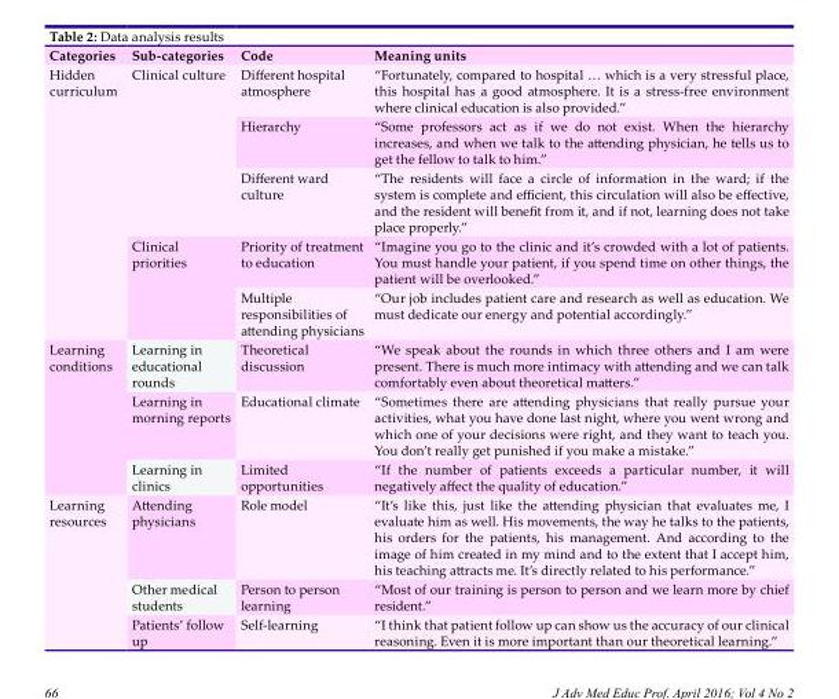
<table><thead><tr><td>Categories</td><td>Sub-categories</td><td>Code</td><td>Meaning units</td></tr></thead><tbody><tr><td rowspan="5">Hidden curriculum</td><td rowspan="3">Clinical culture</td><td>Different hospital atmosphere</td><td>“Fortunately, compared to hospital … which is a very stressful place, this hospital has a good atmosphere. It is a stress-free environment where clinical education is also provided.”</td></tr><tr><td>Hierarchy</td><td>“Some professors act as if we do not exist. When the hierarchy increases, and when we talk to the attending physician, he tells us to get the fellow to talk to him.”</td></tr><tr><td>Different ward culture</td><td>“The residents will face a circle of information in the ward; if the system is complete and efficient, this circulation will also be effective, and the resident will benefit from it, and if not, learning does not take place properly.”</td></tr><tr><td rowspan="2">Clinical priorities</td><td>Priority of treatment to education</td><td>“Imagine you go to the clinic and it’s crowded with a lot of patients. You must handle your patient, if you spend time on other things, the patient will be overlooked.”</td></tr><tr><td>Multiple responsibilities of attending physicians</td><td>“Our job includes patient care and research as well as education. We must dedicate our energy and potential accordingly.”</td></tr><tr><td rowspan="3">Learning conditions</td><td>Learning in educational rounds</td><td>Theoretical discussion</td><td>“We speak about the rounds in which three others and I am were present. There is much more intimacy with attending and we can talk comfortably even about theoretical matters.”</td></tr><tr><td>Learning in morning reports</td><td>Educational climate</td><td>“Sometimes there are attending physicians that really pursue your activities, what you have done last night, where you went wrong and which one of your decisions were right, and they want to teach you. You don’t really get punished if you make a mistake.”</td></tr><tr><td>Learning in clinics</td><td>Limited opportunities</td><td>“If the number of patients exceeds a particular number, it will negatively affect the quality of education.”</td></tr><tr><td rowspan="3">Learning resources</td><td>Attending physicians</td><td>Role model</td><td>“It’s like this, just like the attending physician that evaluates me, I evaluate him as well. His movements, the way he talks to the patients, his orders for the patients, his management. And according to the image of him created in my mind and to the extent that I accept him, his teaching attracts me. It’s directly related to his performance.”</td></tr><tr><td>Other medical students</td><td>Person to person learning</td><td>“Most of our training is person to person and we learn more by chief resident.”</td></tr><tr><td>Patients’ follow up</td><td>Self-learning</td><td>“I think that patient follow up can show us the accuracy of our clinical reasoning. Even it is more important than our theoretical learning.”</td></tr></tbody></table>